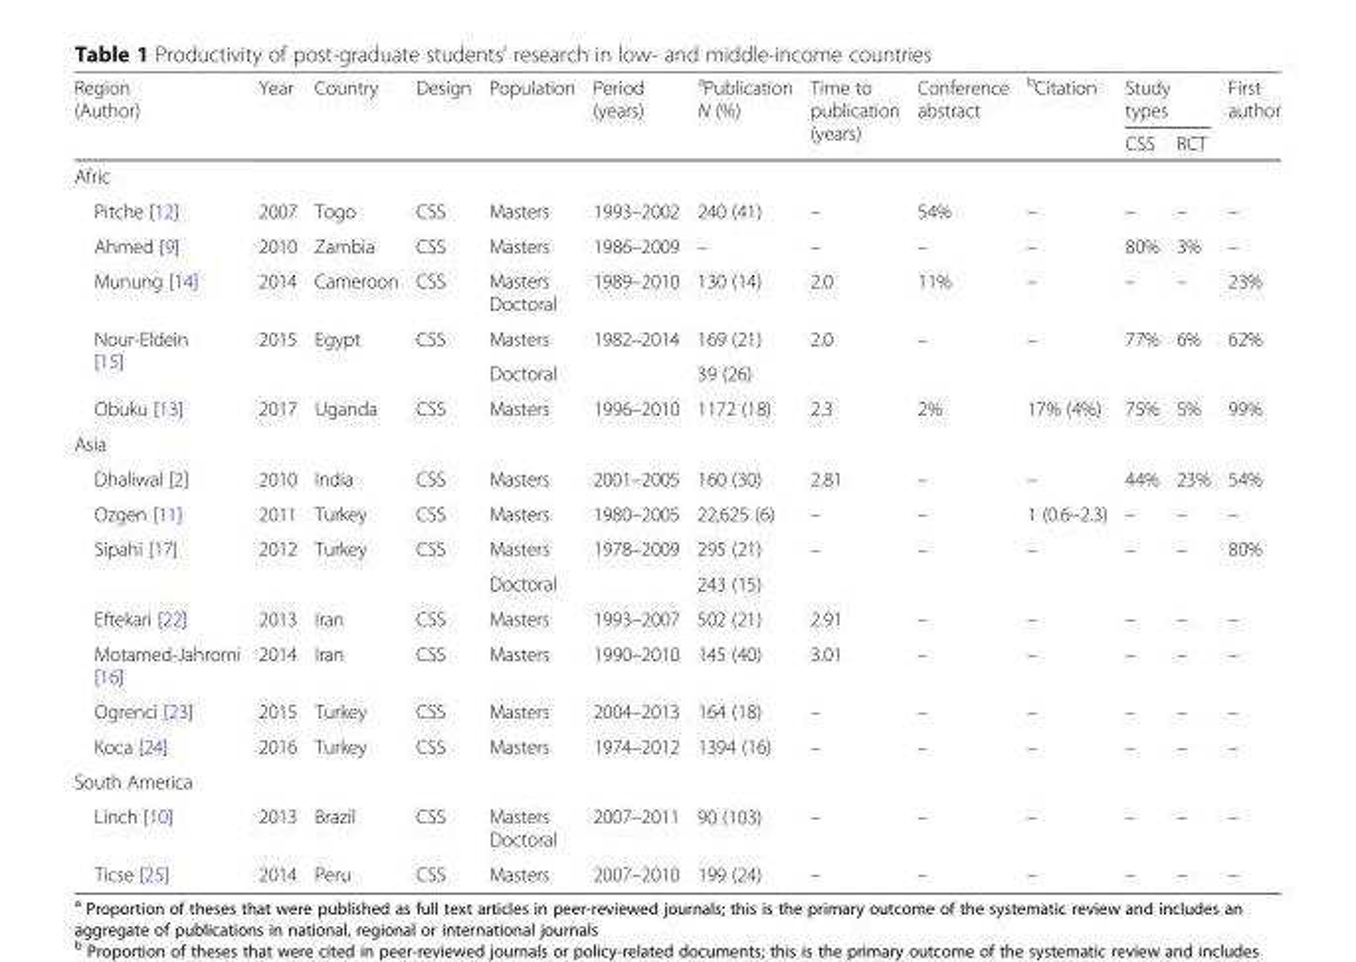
<table><thead><tr><td rowspan="2">Region (Author)</td><td rowspan="2">Year</td><td rowspan="2">Country</td><td rowspan="2">Design</td><td rowspan="2">Population</td><td rowspan="2">Period (years)</td><td rowspan="2"><sup>a</sup>Publication N (%)</td><td rowspan="2">Time to publication (years)</td><td rowspan="2">Conference abstract</td><td rowspan="2"><sup>b</sup>Citation</td><td colspan="2">Study types</td><td rowspan="2">First author</td></tr><tr><td>CSS</td><td>RCT</td></tr></thead><tbody><tr><td colspan="13">Afric</td></tr><tr><td>Pitche [12]</td><td>2007</td><td>Togo</td><td>CSS</td><td>Masters</td><td>1993–2002</td><td>240 (41)</td><td>–</td><td>54%</td><td>–</td><td>–</td><td>–</td><td>–</td></tr><tr><td>Ahmed [9]</td><td>2010</td><td>Zambia</td><td>CSS</td><td>Masters</td><td>1986–2009</td><td>–</td><td>–</td><td>–</td><td>–</td><td>80%</td><td>3%</td><td>–</td></tr><tr><td>Munung [14]</td><td>2014</td><td>Cameroon</td><td>CSS</td><td>Masters Doctoral</td><td>1989–2010</td><td>130 (14)</td><td>2.0</td><td>11%</td><td>–</td><td>–</td><td>–</td><td>23%</td></tr><tr><td rowspan="2">Nour-Eldein [15]</td><td rowspan="2">2015</td><td rowspan="2">Egypt</td><td rowspan="2">CSS</td><td>Masters</td><td rowspan="2">1982–2014</td><td>169 (21)</td><td rowspan="2">2.0</td><td rowspan="2">–</td><td rowspan="2">–</td><td rowspan="2">77%</td><td rowspan="2">6%</td><td rowspan="2">62%</td></tr><tr><td>Doctoral</td><td>39 (26)</td></tr><tr><td>Obuku [13]</td><td>2017</td><td>Uganda</td><td>CSS</td><td>Masters</td><td>1996–2010</td><td>1172 (18)</td><td>2.3</td><td>2%</td><td>17% (4%)</td><td>75%</td><td>5%</td><td>99%</td></tr><tr><td colspan="13">Asia</td></tr><tr><td>Dhaliwal [2]</td><td>2010</td><td>India</td><td>CSS</td><td>Masters</td><td>2001–2005</td><td>160 (30)</td><td>2.81</td><td>–</td><td>–</td><td>44%</td><td>23%</td><td>54%</td></tr><tr><td>Ozgen [11]</td><td>2011</td><td>Turkey</td><td>CSS</td><td>Masters</td><td>1980–2005</td><td>22,625 (6)</td><td>–</td><td>–</td><td>1 (0.6–2.3)</td><td>–</td><td>–</td><td>–</td></tr><tr><td rowspan="2">Sipahi [17]</td><td rowspan="2">2012</td><td rowspan="2">Turkey</td><td rowspan="2">CSS</td><td>Masters</td><td rowspan="2">1978–2009</td><td>295 (21)</td><td rowspan="2">–</td><td rowspan="2">–</td><td rowspan="2">–</td><td rowspan="2">–</td><td rowspan="2">–</td><td rowspan="2">80%</td></tr><tr><td>Doctoral</td><td>243 (15)</td></tr><tr><td>Eftekari [22]</td><td>2013</td><td>Iran</td><td>CSS</td><td>Masters</td><td>1993–2007</td><td>502 (21)</td><td>2.91</td><td>–</td><td>–</td><td>–</td><td>–</td><td>–</td></tr><tr><td>Motamed-Jahromi [16]</td><td>2014</td><td>Iran</td><td>CSS</td><td>Masters</td><td>1990–2010</td><td>145 (40)</td><td>3.01</td><td>–</td><td>–</td><td>–</td><td>–</td><td>–</td></tr><tr><td>Ogrenci [23]</td><td>2015</td><td>Turkey</td><td>CSS</td><td>Masters</td><td>2004–2013</td><td>164 (18)</td><td>–</td><td>–</td><td>–</td><td>–</td><td>–</td><td>–</td></tr><tr><td>Koca [24]</td><td>2016</td><td>Turkey</td><td>CSS</td><td>Masters</td><td>1974–2012</td><td>1394 (16)</td><td>–</td><td>–</td><td>–</td><td>–</td><td>–</td><td>–</td></tr><tr><td colspan="13">South America</td></tr><tr><td>Linch [10]</td><td>2013</td><td>Brazil</td><td>CSS</td><td>Masters Doctoral</td><td>2007–2011</td><td>90 (103)</td><td>–</td><td>–</td><td>–</td><td>–</td><td>–</td><td>–</td></tr><tr><td>Ticse [25]</td><td>2014</td><td>Peru</td><td>CSS</td><td>Masters</td><td>2007–2010</td><td>199 (24)</td><td>–</td><td>–</td><td>–</td><td>–</td><td>–</td><td>–</td></tr></tbody></table>